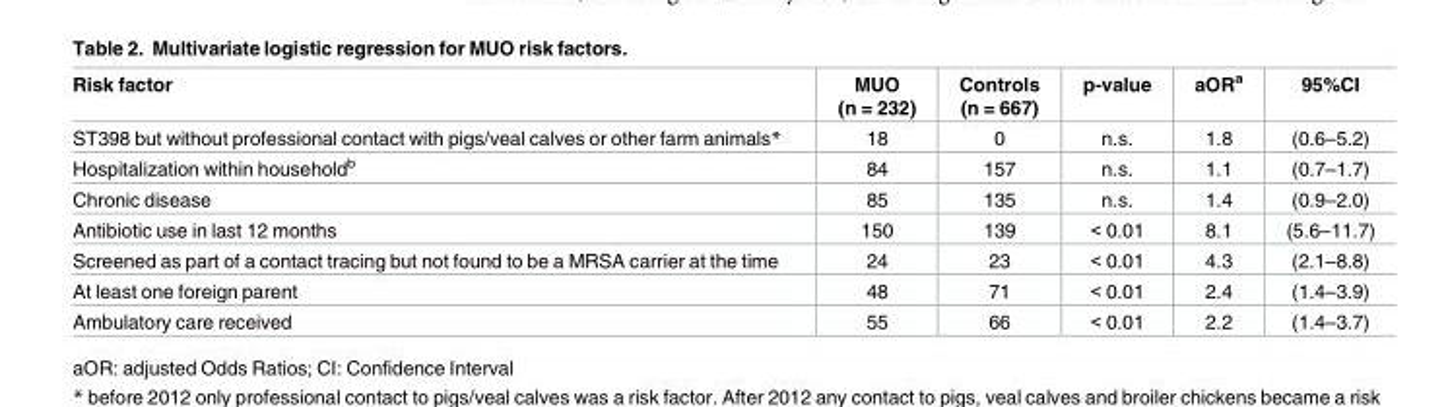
<table><thead><tr><td>Risk factor</td><td>MUO (n = 232)</td><td>Controls (n = 667)</td><td>p-value</td><td>aOR<sup>a</sup></td><td>95%CI</td></tr></thead><tbody><tr><td>ST398 but without professional contact with pigs/veal calves or other farm animals*</td><td>18</td><td>0</td><td>n.s.</td><td>1.8</td><td>(0.6–5.2)</td></tr><tr><td>Hospitalization within household<sup>b</sup></td><td>84</td><td>157</td><td>n.s.</td><td>1.1</td><td>(0.7–1.7)</td></tr><tr><td>Chronic disease</td><td>85</td><td>135</td><td>n.s.</td><td>1.4</td><td>(0.9–2.0)</td></tr><tr><td>Antibiotic use in last 12 months</td><td>150</td><td>139</td><td>&lt; 0.01</td><td>8.1</td><td>(5.6–11.7)</td></tr><tr><td>Screened as part of a contact tracing but not found to be a MRSA carrier at the time</td><td>24</td><td>23</td><td>&lt; 0.01</td><td>4.3</td><td>(2.1–8.8)</td></tr><tr><td>At least one foreign parent</td><td>48</td><td>71</td><td>&lt; 0.01</td><td>2.4</td><td>(1.4–3.9)</td></tr><tr><td>Ambulatory care received</td><td>55</td><td>66</td><td>&lt; 0.01</td><td>2.2</td><td>(1.4–3.7)</td></tr></tbody></table>